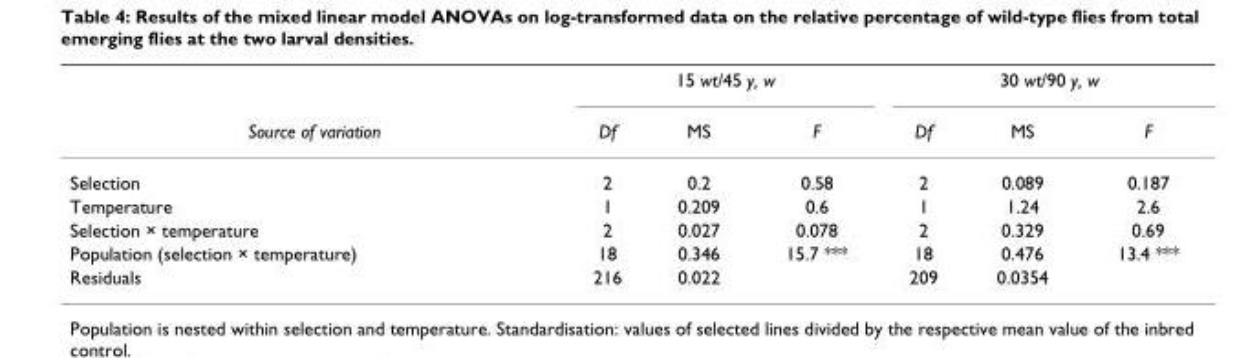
<table><thead><tr><td rowspan="2">Source of variation</td><td colspan="3">15 wt/45 y, w</td><td colspan="3">30 wt/90 y, w</td></tr><tr><td>Df</td><td>MS</td><td>F</td><td>Df</td><td>MS</td><td>F</td></tr></thead><tbody><tr><td>Selection</td><td>2</td><td>0.2</td><td>0.58</td><td>2</td><td>0.089</td><td>0.187</td></tr><tr><td>Temperature</td><td>1</td><td>0.209</td><td>0.6</td><td>1</td><td>1.24</td><td>2.6</td></tr><tr><td>Selection × temperature</td><td>2</td><td>0.027</td><td>0.078</td><td>2</td><td>0.329</td><td>0.69</td></tr><tr><td>Population (selection × temperature)</td><td>18</td><td>0.346</td><td>15.7 ***</td><td>18</td><td>0.476</td><td>13.4 ***</td></tr><tr><td>Residuals</td><td>216</td><td>0.022</td><td></td><td>209</td><td>0.0354</td><td></td></tr></tbody></table>